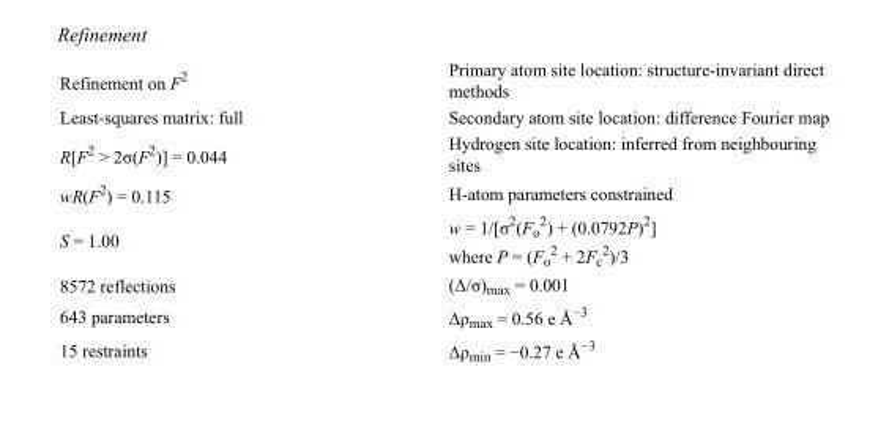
<table><tbody><tr><td>Refinement on F<sup>2</sup></td><td>Primary atom site location: structure-invariant direct methods</td></tr><tr><td>Least-squares matrix: full</td><td>Secondary atom site location: difference Fourier map</td></tr><tr><td>R[F<sup>2</sup> &gt; 2σ(F<sup>2</sup>)] = 0.044</td><td>Hydrogen site location: inferred from neighbouring sites</td></tr><tr><td>wR(F<sup>2</sup>) = 0.115</td><td>H-atom parameters constrained</td></tr><tr><td>S = 1.00</td><td>w = 1/[σ<sup>2</sup>(F<sub>o</sub> <sup>2</sup>) + (0.0792P)<sup>2</sup>] where P = (F<sub>o</sub> <sup>2</sup> + 2F<sub>c</sub> <sup>2</sup>)/3</td></tr><tr><td>8572 reflections</td><td>(Δ/σ)<sub>max</sub> = 0.001</td></tr><tr><td>643 parameters</td><td>Δρ<sub>max</sub> = 0.56 e Å<sup>−3</sup></td></tr><tr><td>15 restraints</td><td>Δρ<sub>min</sub> = −0.27 e Å<sup>−3</sup></td></tr></tbody></table>